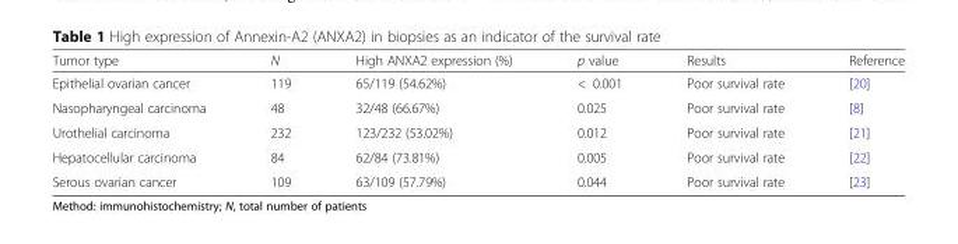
<table><thead><tr><td>Tumor type</td><td>N</td><td>High ANXA2 expression (%)</td><td>p value</td><td>Results</td><td>Reference</td></tr></thead><tbody><tr><td>Epithelial ovarian cancer</td><td>119</td><td>65/119 (54.62%)</td><td>&lt; 0.001</td><td>Poor survival rate</td><td>[20]</td></tr><tr><td>Nasopharyngeal carcinoma</td><td>48</td><td>32/48 (66.67%)</td><td>0.025</td><td>Poor survival rate</td><td>[8]</td></tr><tr><td>Urothelial carcinoma</td><td>232</td><td>123/232 (53.02%)</td><td>0.012</td><td>Poor survival rate</td><td>[21]</td></tr><tr><td>Hepatocellular carcinoma</td><td>84</td><td>62/84 (73.81%)</td><td>0.005</td><td>Poor survival rate</td><td>[22]</td></tr><tr><td>Serous ovarian cancer</td><td>109</td><td>63/109 (57.79%)</td><td>0.044</td><td>Poor survival rate</td><td>[23]</td></tr></tbody></table>